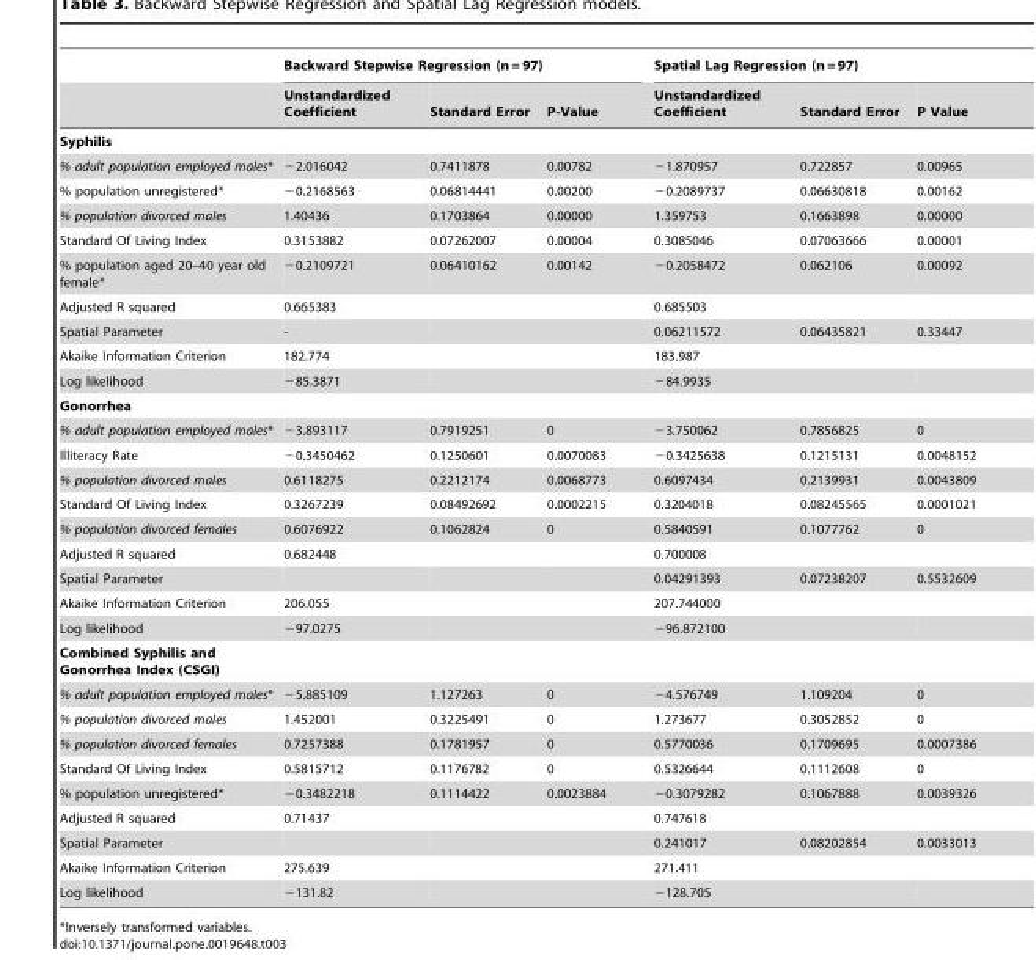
<table><thead><tr><td rowspan="2"></td><td colspan="3">Backward Stepwise Regression (n = 97)</td><td colspan="3">Spatial Lag Regression (n = 97)</td></tr><tr><td>Unstandardized Coefficient</td><td>Standard Error</td><td>P-Value</td><td>Unstandardized Coefficient</td><td>Standard Error</td><td>P Value</td></tr></thead><tbody><tr><td colspan="7">Syphilis</td></tr><tr><td>% adult population employed males*</td><td>−2.016042</td><td>0.7411878</td><td>0.00782</td><td>−1.870957</td><td>0.722857</td><td>0.00965</td></tr><tr><td>% population unregistered*</td><td>−0.2168563</td><td>0.06814441</td><td>0.00200</td><td>−0.2089737</td><td>0.06630818</td><td>0.00162</td></tr><tr><td>% population divorced males</td><td>1.40436</td><td>0.1703864</td><td>0.00000</td><td>1.359753</td><td>0.1663898</td><td>0.00000</td></tr><tr><td>Standard Of Living Index</td><td>0.3153882</td><td>0.07262007</td><td>0.00004</td><td>0.3085046</td><td>0.07063666</td><td>0.00001</td></tr><tr><td>% population aged 20–40 year old female*</td><td>−0.2109721</td><td>0.06410162</td><td>0.00142</td><td>−0.2058472</td><td>0.062106</td><td>0.00092</td></tr><tr><td>Adjusted R squared</td><td>0.665383</td><td></td><td></td><td>0.685503</td><td></td><td></td></tr><tr><td>Spatial Parameter</td><td>-</td><td></td><td></td><td>0.06211572</td><td>0.06435821</td><td>0.33447</td></tr><tr><td>Akaike Information Criterion</td><td>182.774</td><td></td><td></td><td>183.987</td><td></td><td></td></tr><tr><td>Log likelihood</td><td>−85.3871</td><td></td><td></td><td>−84.9935</td><td></td><td></td></tr><tr><td colspan="7">Gonorrhea</td></tr><tr><td>% adult population employed males*</td><td>−3.893117</td><td>0.7919251</td><td>0</td><td>−3.750062</td><td>0.7856825</td><td>0</td></tr><tr><td>Illiteracy Rate</td><td>−0.3450462</td><td>0.1250601</td><td>0.0070083</td><td>−0.3425638</td><td>0.1215131</td><td>0.0048152</td></tr><tr><td>% population divorced males</td><td>0.6118275</td><td>0.2212174</td><td>0.0068773</td><td>0.6097434</td><td>0.2139931</td><td>0.0043809</td></tr><tr><td>Standard Of Living Index</td><td>0.3267239</td><td>0.08492692</td><td>0.0002215</td><td>0.3204018</td><td>0.08245565</td><td>0.0001021</td></tr><tr><td>% population divorced females</td><td>0.6076922</td><td>0.1062824</td><td>0</td><td>0.5840591</td><td>0.1077762</td><td>0</td></tr><tr><td>Adjusted R squared</td><td>0.682448</td><td></td><td></td><td>0.700008</td><td></td><td></td></tr><tr><td>Spatial Parameter</td><td></td><td></td><td></td><td>0.04291393</td><td>0.07238207</td><td>0.5532609</td></tr><tr><td>Akaike Information Criterion</td><td>206.055</td><td></td><td></td><td>207.744000</td><td></td><td></td></tr><tr><td>Log likelihood</td><td>−97.0275</td><td></td><td></td><td>−96.872100</td><td></td><td></td></tr><tr><td colspan="7">Combined Syphilis and Gonorrhea Index (CSGI)</td></tr><tr><td>% adult population employed males*</td><td>−5.885109</td><td>1.127263</td><td>0</td><td>−4.576749</td><td>1.109204</td><td>0</td></tr><tr><td>% population divorced males</td><td>1.452001</td><td>0.3225491</td><td>0</td><td>1.273677</td><td>0.3052852</td><td>0</td></tr><tr><td>% population divorced females</td><td>0.7257388</td><td>0.1781957</td><td>0</td><td>0.5770036</td><td>0.1709695</td><td>0.0007386</td></tr><tr><td>Standard Of Living Index</td><td>0.5815712</td><td>0.1176782</td><td>0</td><td>0.5326644</td><td>0.1112608</td><td>0</td></tr><tr><td>% population unregistered*</td><td>−0.3482218</td><td>0.1114422</td><td>0.0023884</td><td>−0.3079282</td><td>0.1067888</td><td>0.0039326</td></tr><tr><td>Adjusted R squared</td><td>0.71437</td><td></td><td></td><td>0.747618</td><td></td><td></td></tr><tr><td>Spatial Parameter</td><td></td><td></td><td></td><td>0.241017</td><td>0.08202854</td><td>0.0033013</td></tr><tr><td>Akaike Information Criterion</td><td>275.639</td><td></td><td></td><td>271.411</td><td></td><td></td></tr><tr><td>Log likelihood</td><td>−131.82</td><td></td><td></td><td>−128.705</td><td></td><td></td></tr></tbody></table>